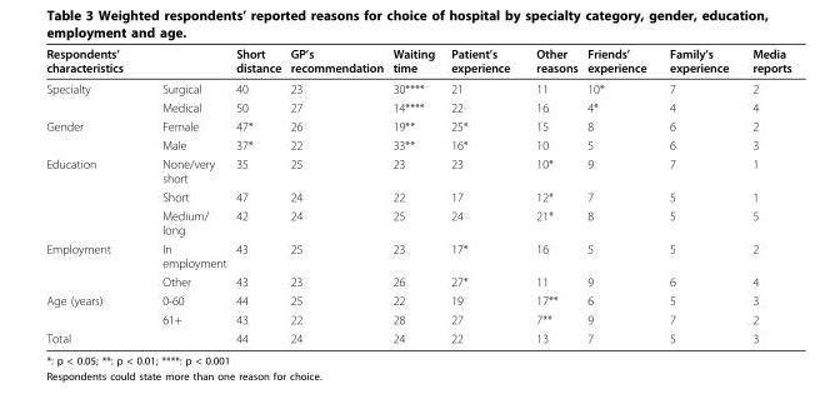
<table><thead><tr><td>Respondents’ characteristics</td><td></td><td>Short distance</td><td>GP’s recommendation</td><td>Waiting time</td><td>Patient’s experience</td><td>Other reasons</td><td>Friends’ experience</td><td>Family’s experience</td><td>Media reports</td></tr></thead><tbody><tr><td rowspan="2">Specialty</td><td>Surgical</td><td>40</td><td>23</td><td>30****</td><td>21</td><td>11</td><td>10*</td><td>7</td><td>2</td></tr><tr><td>Medical</td><td>50</td><td>27</td><td>14****</td><td>22</td><td>16</td><td>4*</td><td>4</td><td>4</td></tr><tr><td rowspan="2">Gender</td><td>Female</td><td>47*</td><td>26</td><td>19**</td><td>25*</td><td>15</td><td>8</td><td>6</td><td>2</td></tr><tr><td>Male</td><td>37*</td><td>22</td><td>33**</td><td>16*</td><td>10</td><td>5</td><td>6</td><td>3</td></tr><tr><td rowspan="3">Education</td><td>None/very short</td><td>35</td><td>25</td><td>23</td><td>23</td><td>10*</td><td>9</td><td>7</td><td>1</td></tr><tr><td>Short</td><td>47</td><td>24</td><td>22</td><td>17</td><td>12*</td><td>7</td><td>5</td><td>1</td></tr><tr><td>Medium/ long</td><td>42</td><td>24</td><td>25</td><td>24</td><td>21*</td><td>8</td><td>5</td><td>5</td></tr><tr><td rowspan="2">Employment</td><td>In employment</td><td>43</td><td>25</td><td>23</td><td>17*</td><td>16</td><td>5</td><td>5</td><td>2</td></tr><tr><td>Other</td><td>43</td><td>23</td><td>26</td><td>27*</td><td>11</td><td>9</td><td>6</td><td>4</td></tr><tr><td rowspan="2">Age (years)</td><td>0-60</td><td>44</td><td>25</td><td>22</td><td>19</td><td>17**</td><td>6</td><td>5</td><td>3</td></tr><tr><td>61+</td><td>43</td><td>22</td><td>28</td><td>27</td><td>7**</td><td>9</td><td>7</td><td>2</td></tr><tr><td>Total</td><td></td><td>44</td><td>24</td><td>24</td><td>22</td><td>13</td><td>7</td><td>5</td><td>3</td></tr></tbody></table>